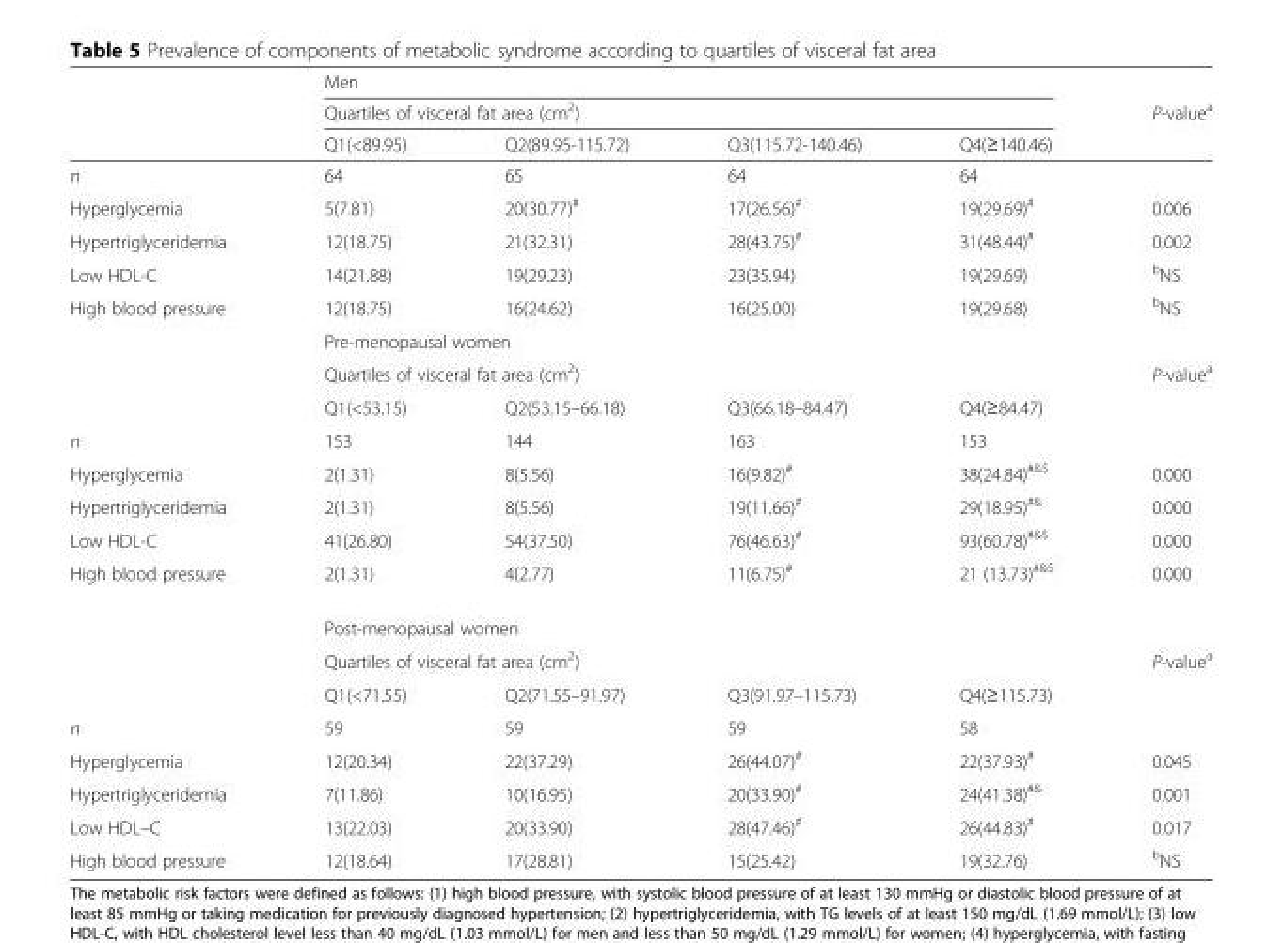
<table><thead><tr><td rowspan="3"></td><td rowspan="2" colspan="4">Men Quartiles of visceral fat area (cm<sup>2</sup>)</td><td rowspan="3">P-value<sup>a</sup></td></tr><tr></tr><tr><td>Q1(&lt;89.95)</td><td>Q2(89.95-115.72)</td><td>Q3(115.72-140.46)</td><td>Q4(≥140.46)</td></tr></thead><tbody><tr><td>n</td><td>64</td><td>65</td><td>64</td><td>64</td><td></td></tr><tr><td>Hyperglycemia</td><td>5(7.81)</td><td>20(30.77)<sup>#</sup></td><td>17(26.56)<sup>#</sup></td><td>19(29.69)<sup>#</sup></td><td>0.006</td></tr><tr><td>Hypertriglyceridemia</td><td>12(18.75)</td><td>21(32.31)</td><td>28(43.75)<sup>#</sup></td><td>31(48.44)<sup>#</sup></td><td>0.002</td></tr><tr><td>Low HDL-C</td><td>14(21.88)</td><td>19(29.23)</td><td>23(35.94)</td><td>19(29.69)</td><td><sup>b</sup>NS</td></tr><tr><td rowspan="4">High blood pressure</td><td>12(18.75)</td><td>16(24.62)</td><td>16(25.00)</td><td>19(29.68)</td><td><sup>b</sup>NS</td></tr><tr><td colspan="4">Pre-menopausal women</td><td></td></tr><tr><td colspan="4">Quartiles of visceral fat area (cm<sup>2</sup>)</td><td rowspan="2">P-value<sup>a</sup></td></tr><tr><td>Q1(&lt;53.15)</td><td>Q2(53.15–66.18)</td><td>Q3(66.18–84.47)</td><td>Q4(≥84.47)</td></tr><tr><td>n</td><td>153</td><td>144</td><td>163</td><td>153</td><td></td></tr><tr><td>Hyperglycemia</td><td>2(1.31)</td><td>8(5.56)</td><td>16(9.82)<sup>#</sup></td><td>38(24.84)<sup>#&amp;$</sup></td><td>0.000</td></tr><tr><td>Hypertriglyceridemia</td><td>2(1.31)</td><td>8(5.56)</td><td>19(11.66)<sup>#</sup></td><td>29(18.95)<sup>#&amp;</sup></td><td>0.000</td></tr><tr><td>Low HDL-C</td><td>41(26.80)</td><td>54(37.50)</td><td>76(46.63)<sup>#</sup></td><td>93(60.78)<sup>#&amp;$</sup></td><td>0.000</td></tr><tr><td rowspan="4">High blood pressure</td><td>2(1.31)</td><td>4(2.77)</td><td>11(6.75)<sup>#</sup></td><td>21 (13.73)<sup>#&amp;$</sup></td><td>0.000</td></tr><tr><td colspan="4">Post-menopausal women</td><td></td></tr><tr><td colspan="4">Quartiles of visceral fat area (cm<sup>2</sup>)</td><td rowspan="2">P-value<sup>a</sup></td></tr><tr><td>Q1(&lt;71.55)</td><td>Q2(71.55–91.97)</td><td>Q3(91.97–115.73)</td><td>Q4(≥115.73)</td></tr><tr><td>n</td><td>59</td><td>59</td><td>59</td><td>58</td><td></td></tr><tr><td>Hyperglycemia</td><td>12(20.34)</td><td>22(37.29)</td><td>26(44.07)<sup>#</sup></td><td>22(37.93)<sup>#</sup></td><td>0.045</td></tr><tr><td>Hypertriglyceridemia</td><td>7(11.86)</td><td>10(16.95)</td><td>20(33.90)<sup>#</sup></td><td>24(41.38)<sup>#&amp;</sup></td><td>0.001</td></tr><tr><td>Low HDL–C</td><td>13(22.03)</td><td>20(33.90)</td><td>28(47.46)<sup>#</sup></td><td>26(44.83)<sup>#</sup></td><td>0.017</td></tr><tr><td>High blood pressure</td><td>12(18.64)</td><td>17(28.81)</td><td>15(25.42)</td><td>19(32.76)</td><td><sup>b</sup>NS</td></tr></tbody></table>